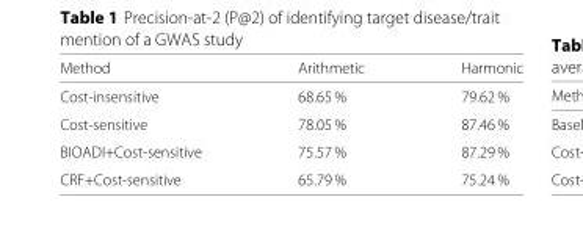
<table><thead><tr><td>Method</td><td>Arithmetic</td><td>Harmonic</td></tr></thead><tbody><tr><td>Cost-insensitive</td><td>68.65 %</td><td>79.62 %</td></tr><tr><td>Cost-sensitive</td><td>78.05 %</td><td>87.46 %</td></tr><tr><td>BIOADI+Cost-sensitive</td><td>75.57 %</td><td>87.29 %</td></tr><tr><td>CRF+Cost-sensitive</td><td>65.79 %</td><td>75.24 %</td></tr></tbody></table>